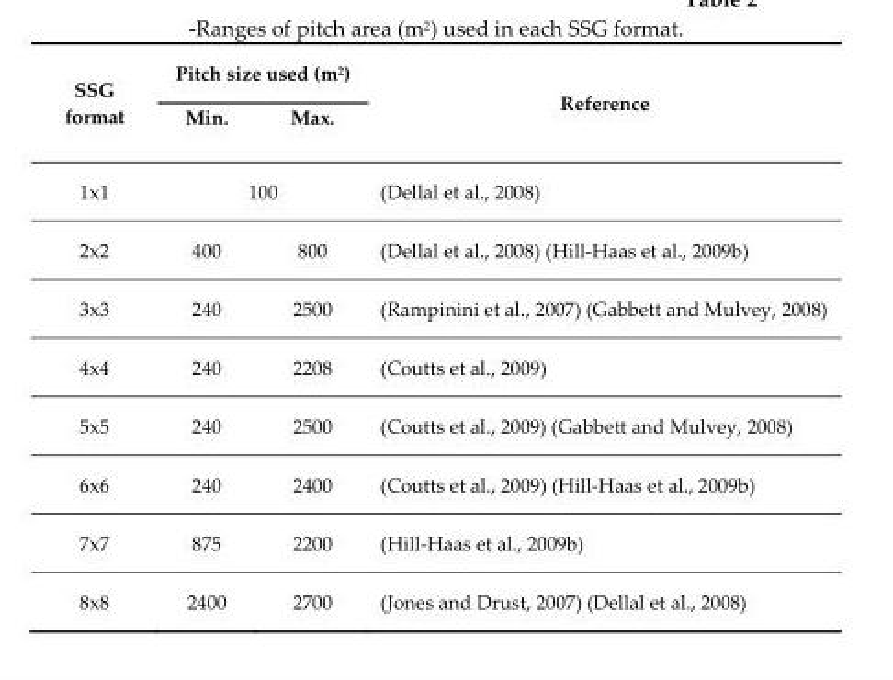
<table><thead><tr><td rowspan="2">SSG format</td><td colspan="2">Pitch size used (m<sup>2</sup>)</td><td rowspan="2">Reference</td></tr><tr><td>Min.</td><td>Max.</td></tr></thead><tbody><tr><td>1x1</td><td colspan="2">100</td><td>(Dellal et al., 2008)</td></tr><tr><td>2x2</td><td>400</td><td>800</td><td>(Dellal et al., 2008) (Hill-Haas et al., 2009b)</td></tr><tr><td>3x3</td><td>240</td><td>2500</td><td>(Rampinini et al., 2007) (Gabbett and Mulvey, 2008)</td></tr><tr><td>4x4</td><td>240</td><td>2208</td><td>(Coutts et al., 2009)</td></tr><tr><td>5x5</td><td>240</td><td>2500</td><td>(Coutts et al., 2009) (Gabbett and Mulvey, 2008)</td></tr><tr><td>6x6</td><td>240</td><td>2400</td><td>(Coutts et al., 2009) (Hill-Haas et al., 2009b)</td></tr><tr><td>7x7</td><td>875</td><td>2200</td><td>(Hill-Haas et al., 2009b)</td></tr><tr><td>8x8</td><td>2400</td><td>2700</td><td>(Jones and Drust, 2007) (Dellal et al., 2008)</td></tr></tbody></table>